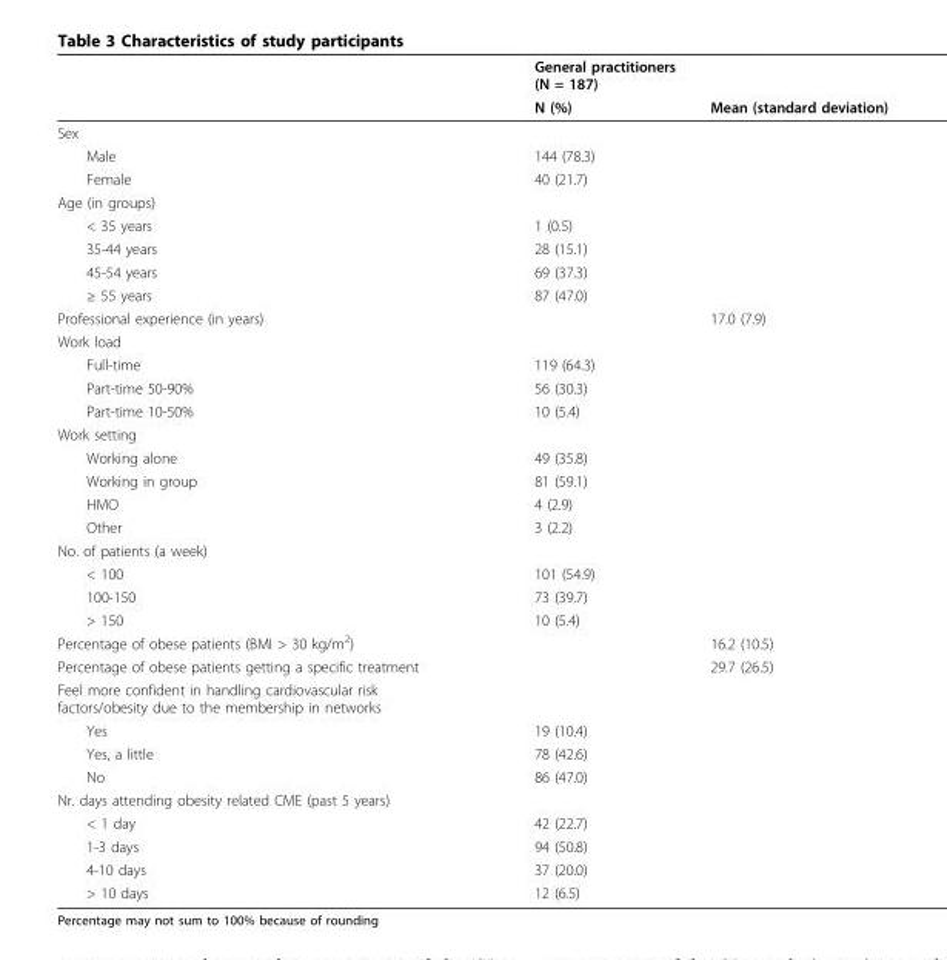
<table><thead><tr><td rowspan="2"></td><td colspan="2">General practitioners (N = 187)</td></tr><tr><td>N (%)</td><td>Mean (standard deviation)</td></tr></thead><tbody><tr><td colspan="3">Sex</td></tr><tr><td>Male</td><td>144 (78.3)</td><td></td></tr><tr><td>Female</td><td>40 (21.7)</td><td></td></tr><tr><td colspan="3">Age (in groups)</td></tr><tr><td>&lt; 35 years</td><td>1 (0.5)</td><td></td></tr><tr><td>35-44 years</td><td>28 (15.1)</td><td></td></tr><tr><td>45-54 years</td><td>69 (37.3)</td><td></td></tr><tr><td>≥ 55 years</td><td>87 (47.0)</td><td></td></tr><tr><td>Professional experience (in years)</td><td></td><td>17.0 (7.9)</td></tr><tr><td colspan="3">Work load</td></tr><tr><td>Full-time</td><td>119 (64.3)</td><td></td></tr><tr><td>Part-time 50-90%</td><td>56 (30.3)</td><td></td></tr><tr><td>Part-time 10-50%</td><td>10 (5.4)</td><td></td></tr><tr><td colspan="3">Work setting</td></tr><tr><td>Working alone</td><td>49 (35.8)</td><td></td></tr><tr><td>Working in group</td><td>81 (59.1)</td><td></td></tr><tr><td>HMO</td><td>4 (2.9)</td><td></td></tr><tr><td>Other</td><td>3 (2.2)</td><td></td></tr><tr><td colspan="3">No. of patients (a week)</td></tr><tr><td>&lt; 100</td><td>101 (54.9)</td><td></td></tr><tr><td>100-150</td><td>73 (39.7)</td><td></td></tr><tr><td>&gt; 150</td><td>10 (5.4)</td><td></td></tr><tr><td>Percentage of obese patients (BMI &gt; 30 kg/m<sup>2</sup>)</td><td></td><td>16.2 (10.5)</td></tr><tr><td>Percentage of obese patients getting a specific treatment</td><td></td><td>29.7 (26.5)</td></tr><tr><td colspan="3">Feel more confident in handling cardiovascular risk factors/obesity due to the membership in networks</td></tr><tr><td>Yes</td><td>19 (10.4)</td><td></td></tr><tr><td>Yes, a little</td><td>78 (42.6)</td><td></td></tr><tr><td>No</td><td>86 (47.0)</td><td></td></tr><tr><td colspan="3">Nr. days attending obesity related CME (past 5 years)</td></tr><tr><td>&lt; 1 day</td><td>42 (22.7)</td><td></td></tr><tr><td>1-3 days</td><td>94 (50.8)</td><td></td></tr><tr><td>4-10 days</td><td>37 (20.0)</td><td></td></tr><tr><td>&gt; 10 days</td><td>12 (6.5)</td><td></td></tr></tbody></table>